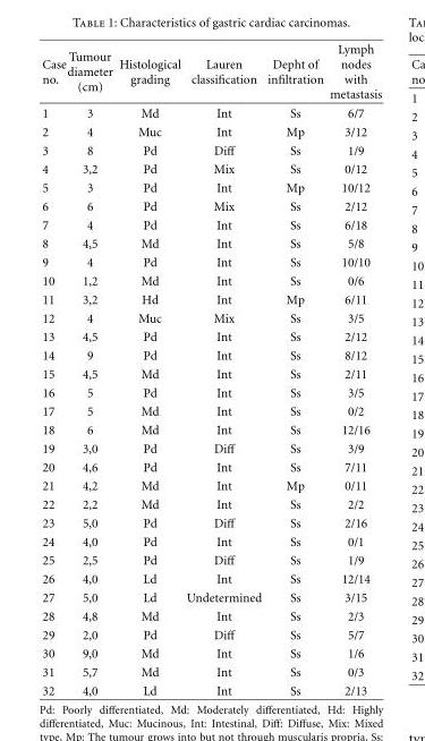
<table><thead><tr><td>Case no.</td><td>Tumour diameter (cm)</td><td>Histological grading</td><td>Lauren classification</td><td>Depht of infiltration</td><td>Lymph nodes with metastasis</td></tr></thead><tbody><tr><td>1</td><td>3</td><td>Md</td><td>Int</td><td>Ss</td><td>6/7</td></tr><tr><td>2</td><td>4</td><td>Muc</td><td>Int</td><td>Mp</td><td>3/12</td></tr><tr><td>3</td><td>8</td><td>Pd</td><td>Diff</td><td>Ss</td><td>1/9</td></tr><tr><td>4</td><td>3,2</td><td>Pd</td><td>Mix</td><td>Ss</td><td>0/12</td></tr><tr><td>5</td><td>3</td><td>Pd</td><td>Int</td><td>Mp</td><td>10/12</td></tr><tr><td>6</td><td>6</td><td>Pd</td><td>Mix</td><td>Ss</td><td>2/12</td></tr><tr><td>7</td><td>4</td><td>Pd</td><td>Int</td><td>Ss</td><td>6/18</td></tr><tr><td>8</td><td>4,5</td><td>Md</td><td>Int</td><td>Ss</td><td>5/8</td></tr><tr><td>9</td><td>4</td><td>Pd</td><td>Int</td><td>Ss</td><td>10/10</td></tr><tr><td>10</td><td>1,2</td><td>Md</td><td>Int</td><td>Ss</td><td>0/6</td></tr><tr><td>11</td><td>3,2</td><td>Hd</td><td>Int</td><td>Mp</td><td>6/11</td></tr><tr><td>12</td><td>4</td><td>Muc</td><td>Mix</td><td>Ss</td><td>3/5</td></tr><tr><td>13</td><td>4,5</td><td>Pd</td><td>Int</td><td>Ss</td><td>2/12</td></tr><tr><td>14</td><td>9</td><td>Pd</td><td>Int</td><td>Ss</td><td>8/12</td></tr><tr><td>15</td><td>4,5</td><td>Md</td><td>Int</td><td>Ss</td><td>2/11</td></tr><tr><td>16</td><td>5</td><td>Pd</td><td>Int</td><td>Ss</td><td>3/5</td></tr><tr><td>17</td><td>5</td><td>Md</td><td>Int</td><td>Ss</td><td>0/2</td></tr><tr><td>18</td><td>6</td><td>Md</td><td>Int</td><td>Ss</td><td>12/16</td></tr><tr><td>19</td><td>3,0</td><td>Pd</td><td>Diff</td><td>Ss</td><td>3/9</td></tr><tr><td>20</td><td>4,6</td><td>Pd</td><td>Int</td><td>Ss</td><td>7/11</td></tr><tr><td>21</td><td>4,2</td><td>Md</td><td>Int</td><td>Mp</td><td>0/11</td></tr><tr><td>22</td><td>2,2</td><td>Md</td><td>Int</td><td>Ss</td><td>2/2</td></tr><tr><td>23</td><td>5,0</td><td>Pd</td><td>Diff</td><td>Ss</td><td>2/16</td></tr><tr><td>24</td><td>4,0</td><td>Pd</td><td>Int</td><td>Ss</td><td>0/1</td></tr><tr><td>25</td><td>2,5</td><td>Pd</td><td>Diff</td><td>Ss</td><td>1/9</td></tr><tr><td>26</td><td>4,0</td><td>Ld</td><td>Int</td><td>Ss</td><td>12/14</td></tr><tr><td>27</td><td>5,0</td><td>Ld</td><td>Undetermined</td><td>Ss</td><td>3/15</td></tr><tr><td>28</td><td>4,8</td><td>Md</td><td>Int</td><td>Ss</td><td>2/3</td></tr><tr><td>29</td><td>2,0</td><td>Pd</td><td>Diff</td><td>Ss</td><td>5/7</td></tr><tr><td>30</td><td>9,0</td><td>Md</td><td>Int</td><td>Ss</td><td>1/6</td></tr><tr><td>31</td><td>5,7</td><td>Md</td><td>Int</td><td>Ss</td><td>0/3</td></tr><tr><td>32</td><td>4,0</td><td>Ld</td><td>Int</td><td>Ss</td><td>2/13</td></tr></tbody></table>